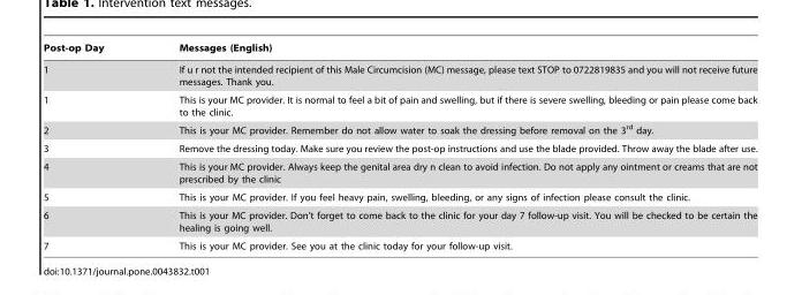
<table><thead><tr><td>Post-op Day</td><td>Messages (English)</td></tr></thead><tbody><tr><td>1</td><td>If u r not the intended recipient of this Male Circumcision (MC) message, please text STOP to 0722819835 and you will not receive future messages. Thank you.</td></tr><tr><td>1</td><td>This is your MC provider. It is normal to feel a bit of pain and swelling, but if there is severe swelling, bleeding or pain please come back to the clinic.</td></tr><tr><td>2</td><td>This is your MC provider. Remember do not allow water to soak the dressing before removal on the 3<sup>rd</sup> day.</td></tr><tr><td>3</td><td>Remove the dressing today. Make sure you review the post-op instructions and use the blade provided. Throw away the blade after use.</td></tr><tr><td>4</td><td>This is your MC provider. Always keep the genital area dry n clean to avoid infection. Do not apply any ointment or creams that are not prescribed by the clinic</td></tr><tr><td>5</td><td>This is your MC provider. If you feel heavy pain, swelling, bleeding, or any signs of infection please consult the clinic.</td></tr><tr><td>6</td><td>This is your MC provider. Don’t forget to come back to the clinic for your day 7 follow-up visit. You will be checked to be certain the healing is going well.</td></tr><tr><td>7</td><td>This is your MC provider. See you at the clinic today for your follow-up visit.</td></tr></tbody></table>